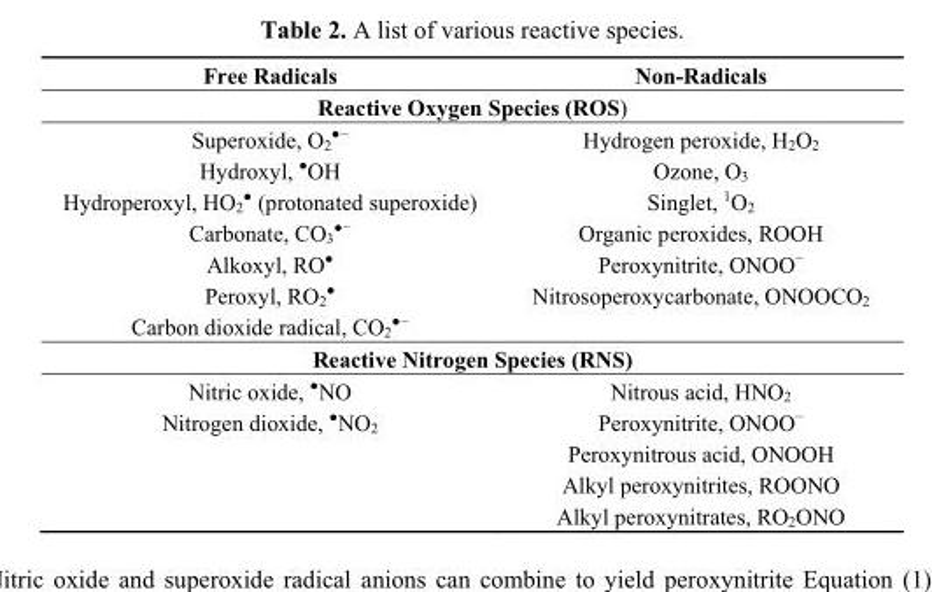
<table><thead><tr><td>Free Radicals</td><td>Non-Radicals</td></tr></thead><tbody><tr><td colspan="2">Reactive Oxygen Species (ROS)</td></tr><tr><td>Superoxide, O<sub>2</sub><sup>●−</sup></td><td>Hydrogen peroxide, H<sub>2</sub>O<sub>2</sub></td></tr><tr><td>Hydroxyl, <sup>●</sup>OH</td><td>Ozone, O<sub>3</sub></td></tr><tr><td>Hydroperoxyl, HO<sub>2</sub><sup>●</sup> (protonated superoxide)</td><td>Singlet, <sup>1</sup>O<sub>2</sub></td></tr><tr><td>Carbonate, CO<sub>3</sub><sup>●−</sup></td><td>Organic peroxides, ROOH</td></tr><tr><td>Alkoxyl, RO<sup>●</sup></td><td>Peroxynitrite, ONOO<sup>−</sup></td></tr><tr><td>Peroxyl, RO<sub>2</sub><sup>●</sup></td><td>Nitrosoperoxycarbonate, ONOOCO<sub>2</sub></td></tr><tr><td colspan="2">Carbon dioxide radical, CO<sub>2</sub><sup>●−</sup></td></tr><tr><td colspan="2">Reactive Nitrogen Species (RNS)</td></tr><tr><td>Nitric oxide, <sup>●</sup>NO</td><td>Nitrous acid, HNO<sub>2</sub></td></tr><tr><td rowspan="4">Nitrogen dioxide, <sup>●</sup>NO<sub>2</sub></td><td>Peroxynitrite, ONOO<sup>−</sup></td></tr><tr><td>Peroxynitrous acid, ONOOH</td></tr><tr><td>Alkyl peroxynitrites, ROONO</td></tr><tr><td>Alkyl peroxynitrates, RO<sub>2</sub>ONO</td></tr></tbody></table>